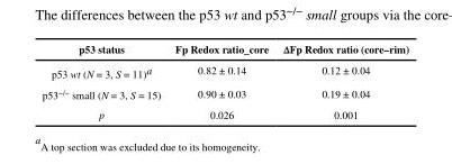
<table><thead><tr><td>p53 status</td><td>Fp Redox ratio_core</td><td>ΔFp Redox ratio (core–rim)</td></tr></thead><tbody><tr><td>p53 wt (N = 3, S = 11)<sup>a</sup></td><td>0.82 ± 0.14</td><td>0.12 ± 0.04</td></tr><tr><td>p53<sup>−/−</sup> small (N = 3, S = 15)</td><td>0.90 ± 0.03</td><td>0.19 ± 0.04</td></tr><tr><td>p</td><td>0.026</td><td>0.001</td></tr></tbody></table>